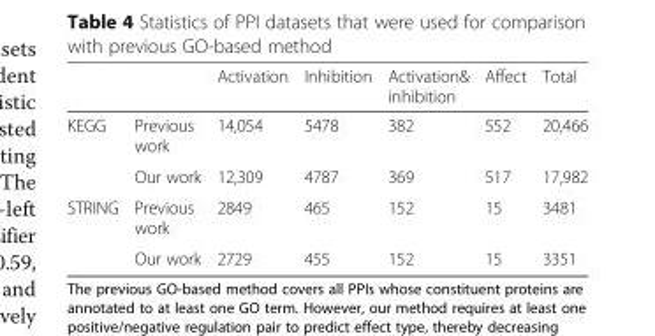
<table><thead><tr><td></td><td></td><td>Activation</td><td>Inhibition</td><td>Activation&amp; inhibition</td><td>Affect</td><td>Total</td></tr></thead><tbody><tr><td rowspan="2">KEGG</td><td>Previous work</td><td>14,054</td><td>5478</td><td>382</td><td>552</td><td>20,466</td></tr><tr><td>Our work</td><td>12,309</td><td>4787</td><td>369</td><td>517</td><td>17,982</td></tr><tr><td rowspan="2">STRING</td><td>Previous work</td><td>2849</td><td>465</td><td>152</td><td>15</td><td>3481</td></tr><tr><td>Our work</td><td>2729</td><td>455</td><td>152</td><td>15</td><td>3351</td></tr></tbody></table>